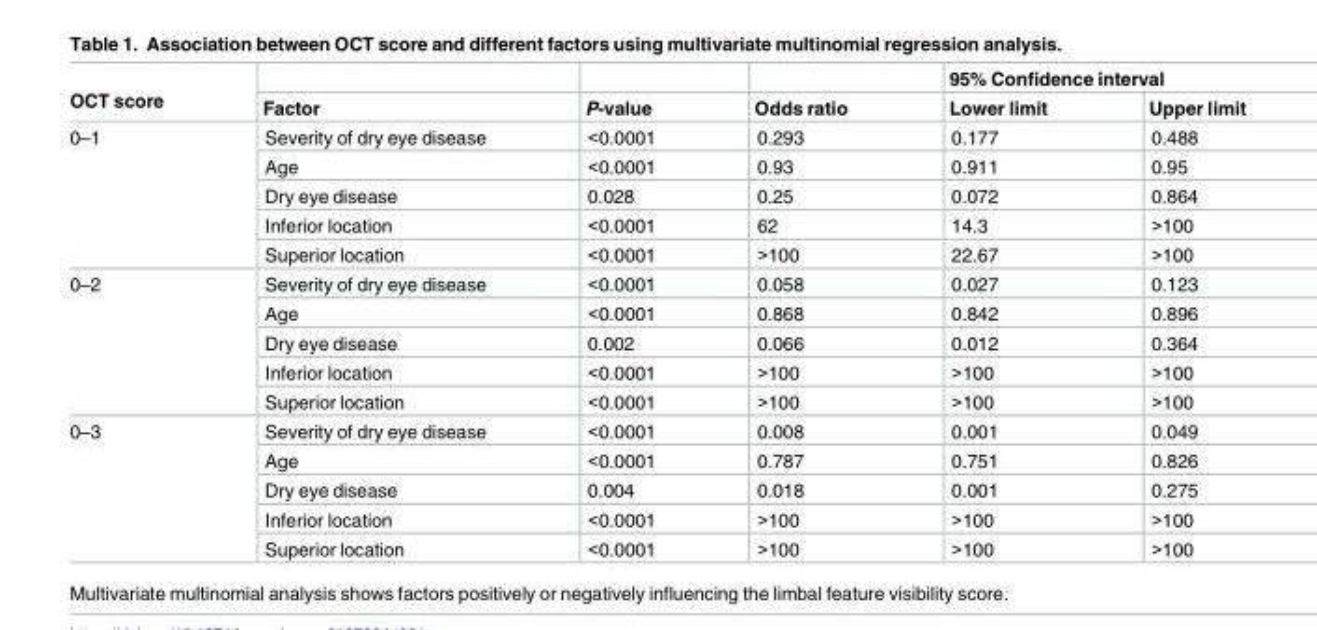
<table><thead><tr><td rowspan="2">OCT score</td><td rowspan="2">Factor</td><td rowspan="2">P-value</td><td rowspan="2">Odds ratio</td><td colspan="2">95% Confidence interval</td></tr><tr><td>Lower limit</td><td>Upper limit</td></tr></thead><tbody><tr><td rowspan="5">0–1</td><td>Severity of dry eye disease</td><td>&lt;0.0001</td><td>0.293</td><td>0.177</td><td>0.488</td></tr><tr><td>Age</td><td>&lt;0.0001</td><td>0.93</td><td>0.911</td><td>0.95</td></tr><tr><td>Dry eye disease</td><td>0.028</td><td>0.25</td><td>0.072</td><td>0.864</td></tr><tr><td>Inferior location</td><td>&lt;0.0001</td><td>62</td><td>14.3</td><td>&gt;100</td></tr><tr><td>Superior location</td><td>&lt;0.0001</td><td>&gt;100</td><td>22.67</td><td>&gt;100</td></tr><tr><td rowspan="5">0–2</td><td>Severity of dry eye disease</td><td>&lt;0.0001</td><td>0.058</td><td>0.027</td><td>0.123</td></tr><tr><td>Age</td><td>&lt;0.0001</td><td>0.868</td><td>0.842</td><td>0.896</td></tr><tr><td>Dry eye disease</td><td>0.002</td><td>0.066</td><td>0.012</td><td>0.364</td></tr><tr><td>Inferior location</td><td>&lt;0.0001</td><td>&gt;100</td><td>&gt;100</td><td>&gt;100</td></tr><tr><td>Superior location</td><td>&lt;0.0001</td><td>&gt;100</td><td>&gt;100</td><td>&gt;100</td></tr><tr><td rowspan="5">0–3</td><td>Severity of dry eye disease</td><td>&lt;0.0001</td><td>0.008</td><td>0.001</td><td>0.049</td></tr><tr><td>Age</td><td>&lt;0.0001</td><td>0.787</td><td>0.751</td><td>0.826</td></tr><tr><td>Dry eye disease</td><td>0.004</td><td>0.018</td><td>0.001</td><td>0.275</td></tr><tr><td>Inferior location</td><td>&lt;0.0001</td><td>&gt;100</td><td>&gt;100</td><td>&gt;100</td></tr><tr><td>Superior location</td><td>&lt;0.0001</td><td>&gt;100</td><td>&gt;100</td><td>&gt;100</td></tr></tbody></table>